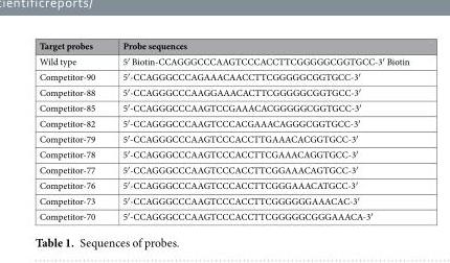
<table><thead><tr><td>Target probes</td><td>Probe sequences</td></tr></thead><tbody><tr><td>Wild type</td><td>5′ Biotin-CCAGGGCCCAAGTCCCACCTTCGGGGGCGGTGCC-3′ Biotin</td></tr><tr><td>Competitor-90</td><td>5′-CCAGGGCCCAGAAACAACCTTCGGGGGCGGTGCC-3′</td></tr><tr><td>Competitor-88</td><td>5′-CCAGGGCCCAAGGAAACACTTCGGGGGCGGTGCC-3′</td></tr><tr><td>Competitor-85</td><td>5′-CCAGGGCCCAAGTCCGAAACACGGGGGCGGTGCC-3′</td></tr><tr><td>Competitor-82</td><td>5′-CCAGGGCCCAAGTCCCACGAAACAGGGCGGTGCC-3′</td></tr><tr><td>Competitor-79</td><td>5′-CCAGGGCCCAAGTCCCACCTTGAAACACGGTGCC-3′</td></tr><tr><td>Competitor-78</td><td>5′-CCAGGGCCCAAGTCCCACCTTCGAAACAGGTGCC-3′</td></tr><tr><td>Competitor-77</td><td>5′-CCAGGGCCCAAGTCCCACCTTCGGAAACAGTGCC-3′</td></tr><tr><td>Competitor-76</td><td>5′-CCAGGGCCCAAGTCCCACCTTCGGGAAACATGCC-3′</td></tr><tr><td>Competitor-73</td><td>5′-CCAGGGCCCAAGTCCCACCTTCGGGGGGAAACAC-3′</td></tr><tr><td>Competitor-70</td><td>5′-CCAGGGCCCAAGTCCCACCTTCGGGGGCGGGAAACA-3′</td></tr></tbody></table>